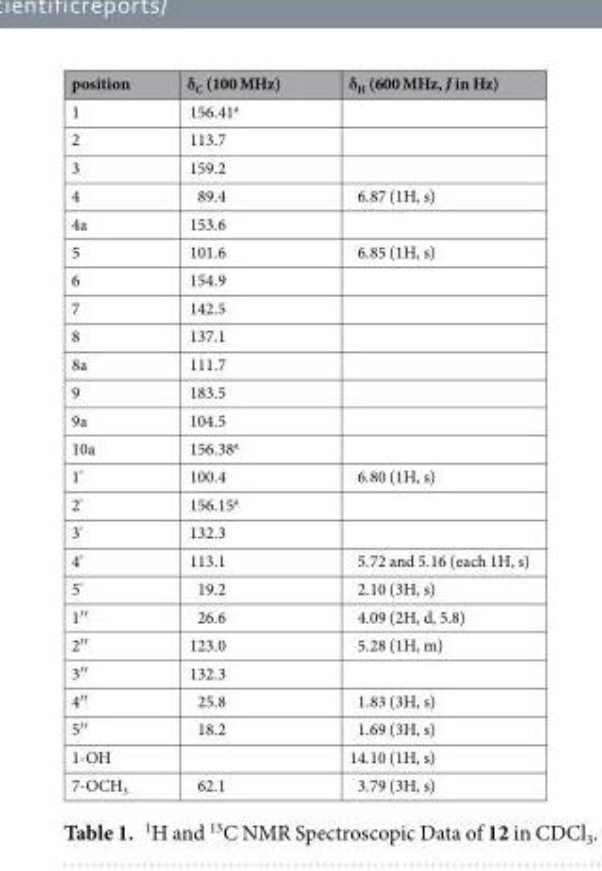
<table><thead><tr><td>position</td><td>δ<sub>C</sub> (100 MHz)</td><td>δ<sub>H</sub> (600 MHz, J in Hz)</td></tr></thead><tbody><tr><td>1</td><td>156.41<sup>a</sup></td><td></td></tr><tr><td>2</td><td>113.7</td><td></td></tr><tr><td>3</td><td>159.2</td><td></td></tr><tr><td>4</td><td>89.4</td><td>6.87 (1H, s)</td></tr><tr><td>4a</td><td>153.6</td><td></td></tr><tr><td>5</td><td>101.6</td><td>6.85 (1H, s)</td></tr><tr><td>6</td><td>154.9</td><td></td></tr><tr><td>7</td><td>142.5</td><td></td></tr><tr><td>8</td><td>137.1</td><td></td></tr><tr><td>8a</td><td>111.7</td><td></td></tr><tr><td>9</td><td>183.5</td><td></td></tr><tr><td>9a</td><td>104.5</td><td></td></tr><tr><td>10a</td><td>156.38<sup>a</sup></td><td></td></tr><tr><td>1&#x27;</td><td>100.4</td><td>6.80 (1H, s)</td></tr><tr><td>2&#x27;</td><td>156.15<sup>a</sup></td><td></td></tr><tr><td>3&#x27;</td><td>132.3</td><td></td></tr><tr><td>4&#x27;</td><td>113.1</td><td>5.72 and 5.16 (each 1H, s)</td></tr><tr><td>5&#x27;</td><td>19.2</td><td>2.10 (3H, s)</td></tr><tr><td>1′′</td><td>26.6</td><td>4.09 (2H, d, 5.8)</td></tr><tr><td>2′′</td><td>123.0</td><td>5.28 (1H, m)</td></tr><tr><td>3′′</td><td>132.3</td><td></td></tr><tr><td>4′′</td><td>25.8</td><td>1.83 (3H, s)</td></tr><tr><td>5′′</td><td>18.2</td><td>1.69 (3H, s)</td></tr><tr><td>1-OH</td><td></td><td>14.10 (1H, s)</td></tr><tr><td>7-OCH<sub>3</sub></td><td>62.1</td><td>3.79 (3H, s)</td></tr></tbody></table>